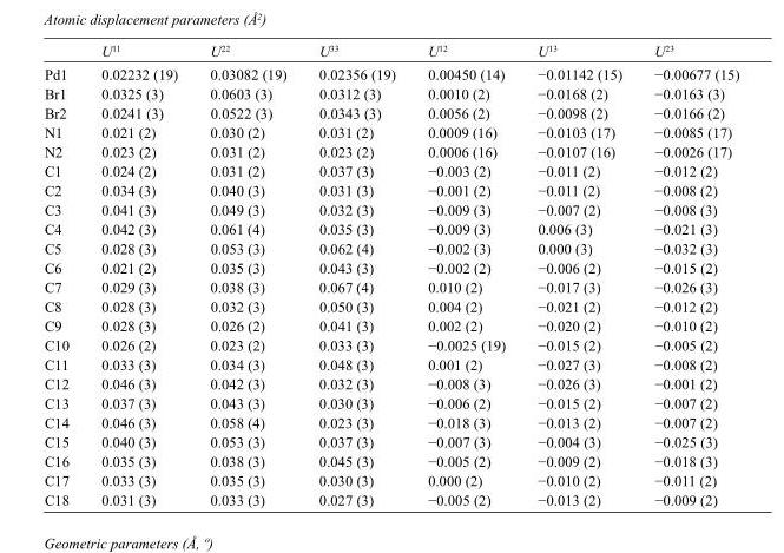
<table><thead><tr><td></td><td>U<sup>11</sup></td><td>U<sup>22</sup></td><td>U<sup>33</sup></td><td>U<sup>12</sup></td><td>U<sup>13</sup></td><td>U<sup>23</sup></td></tr></thead><tbody><tr><td>Pd1</td><td>0.02232 (19)</td><td>0.03082 (19)</td><td>0.02356 (19)</td><td>0.00450 (14)</td><td>−0.01142 (15)</td><td>−0.00677 (15)</td></tr><tr><td>Br1</td><td>0.0325 (3)</td><td>0.0603 (3)</td><td>0.0312 (3)</td><td>0.0010 (2)</td><td>−0.0168 (2)</td><td>−0.0163 (3)</td></tr><tr><td>Br2</td><td>0.0241 (3)</td><td>0.0522 (3)</td><td>0.0343 (3)</td><td>0.0056 (2)</td><td>−0.0098 (2)</td><td>−0.0166 (2)</td></tr><tr><td>N1</td><td>0.021 (2)</td><td>0.030 (2)</td><td>0.031 (2)</td><td>0.0009 (16)</td><td>−0.0103 (17)</td><td>−0.0085 (17)</td></tr><tr><td>N2</td><td>0.023 (2)</td><td>0.031 (2)</td><td>0.023 (2)</td><td>0.0006 (16)</td><td>−0.0107 (16)</td><td>−0.0026 (17)</td></tr><tr><td>C1</td><td>0.024 (2)</td><td>0.031 (2)</td><td>0.037 (3)</td><td>−0.003 (2)</td><td>−0.011 (2)</td><td>−0.012 (2)</td></tr><tr><td>C2</td><td>0.034 (3)</td><td>0.040 (3)</td><td>0.031 (3)</td><td>−0.001 (2)</td><td>−0.011 (2)</td><td>−0.008 (2)</td></tr><tr><td>C3</td><td>0.041 (3)</td><td>0.049 (3)</td><td>0.032 (3)</td><td>−0.009 (3)</td><td>−0.007 (2)</td><td>−0.008 (3)</td></tr><tr><td>C4</td><td>0.042 (3)</td><td>0.061 (4)</td><td>0.035 (3)</td><td>−0.009 (3)</td><td>0.006 (3)</td><td>−0.021 (3)</td></tr><tr><td>C5</td><td>0.028 (3)</td><td>0.053 (3)</td><td>0.062 (4)</td><td>−0.002 (3)</td><td>0.000 (3)</td><td>−0.032 (3)</td></tr><tr><td>C6</td><td>0.021 (2)</td><td>0.035 (3)</td><td>0.043 (3)</td><td>−0.002 (2)</td><td>−0.006 (2)</td><td>−0.015 (2)</td></tr><tr><td>C7</td><td>0.029 (3)</td><td>0.038 (3)</td><td>0.067 (4)</td><td>0.010 (2)</td><td>−0.017 (3)</td><td>−0.026 (3)</td></tr><tr><td>C8</td><td>0.028 (3)</td><td>0.032 (3)</td><td>0.050 (3)</td><td>0.004 (2)</td><td>−0.021 (2)</td><td>−0.012 (2)</td></tr><tr><td>C9</td><td>0.028 (3)</td><td>0.026 (2)</td><td>0.041 (3)</td><td>0.002 (2)</td><td>−0.020 (2)</td><td>−0.010 (2)</td></tr><tr><td>C10</td><td>0.026 (2)</td><td>0.023 (2)</td><td>0.033 (3)</td><td>−0.0025 (19)</td><td>−0.015 (2)</td><td>−0.005 (2)</td></tr><tr><td>C11</td><td>0.033 (3)</td><td>0.034 (3)</td><td>0.048 (3)</td><td>0.001 (2)</td><td>−0.027 (3)</td><td>−0.008 (2)</td></tr><tr><td>C12</td><td>0.046 (3)</td><td>0.042 (3)</td><td>0.032 (3)</td><td>−0.008 (3)</td><td>−0.026 (3)</td><td>−0.001 (2)</td></tr><tr><td>C13</td><td>0.037 (3)</td><td>0.043 (3)</td><td>0.030 (3)</td><td>−0.006 (2)</td><td>−0.015 (2)</td><td>−0.007 (2)</td></tr><tr><td>C14</td><td>0.046 (3)</td><td>0.058 (4)</td><td>0.023 (3)</td><td>−0.018 (3)</td><td>−0.013 (2)</td><td>−0.007 (2)</td></tr><tr><td>C15</td><td>0.040 (3)</td><td>0.053 (3)</td><td>0.037 (3)</td><td>−0.007 (3)</td><td>−0.004 (3)</td><td>−0.025 (3)</td></tr><tr><td>C16</td><td>0.035 (3)</td><td>0.038 (3)</td><td>0.045 (3)</td><td>−0.005 (2)</td><td>−0.009 (2)</td><td>−0.018 (3)</td></tr><tr><td>C17</td><td>0.033 (3)</td><td>0.035 (3)</td><td>0.030 (3)</td><td>0.000 (2)</td><td>−0.010 (2)</td><td>−0.011 (2)</td></tr><tr><td>C18</td><td>0.031 (3)</td><td>0.033 (3)</td><td>0.027 (3)</td><td>−0.005 (2)</td><td>−0.013 (2)</td><td>−0.009 (2)</td></tr></tbody></table>